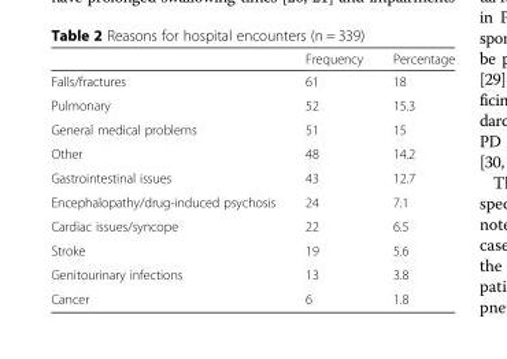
<table><thead><tr><td></td><td>Frequency</td><td>Percentage</td></tr></thead><tbody><tr><td>Falls/fractures</td><td>61</td><td>18</td></tr><tr><td>Pulmonary</td><td>52</td><td>15.3</td></tr><tr><td>General medical problems</td><td>51</td><td>15</td></tr><tr><td>Other</td><td>48</td><td>14.2</td></tr><tr><td>Gastrointestinal issues</td><td>43</td><td>12.7</td></tr><tr><td>Encephalopathy/drug-induced psychosis</td><td>24</td><td>7.1</td></tr><tr><td>Cardiac issues/syncope</td><td>22</td><td>6.5</td></tr><tr><td>Stroke</td><td>19</td><td>5.6</td></tr><tr><td>Genitourinary infections</td><td>13</td><td>3.8</td></tr><tr><td>Cancer</td><td>6</td><td>1.8</td></tr></tbody></table>